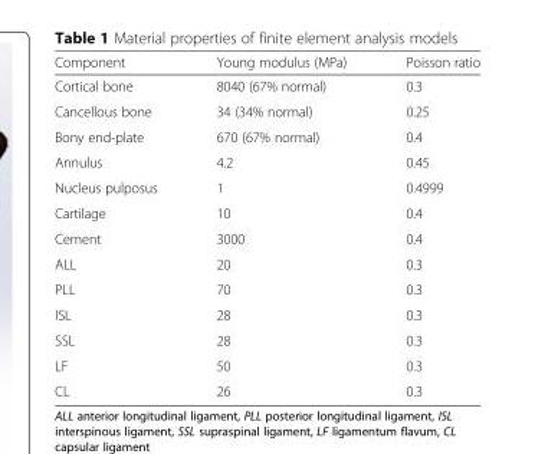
<table><thead><tr><td>Component</td><td>Young modulus (MPa)</td><td>Poisson ratio</td></tr></thead><tbody><tr><td>Cortical bone</td><td>8040 (67% normal)</td><td>0.3</td></tr><tr><td>Cancellous bone</td><td>34 (34% normal)</td><td>0.25</td></tr><tr><td>Bony end-plate</td><td>670 (67% normal)</td><td>0.4</td></tr><tr><td>Annulus</td><td>4.2</td><td>0.45</td></tr><tr><td>Nucleus pulposus</td><td>1</td><td>0.4999</td></tr><tr><td>Cartilage</td><td>10</td><td>0.4</td></tr><tr><td>Cement</td><td>3000</td><td>0.4</td></tr><tr><td>ALL</td><td>20</td><td>0.3</td></tr><tr><td>PLL</td><td>70</td><td>0.3</td></tr><tr><td>ISL</td><td>28</td><td>0.3</td></tr><tr><td>SSL</td><td>28</td><td>0.3</td></tr><tr><td>LF</td><td>50</td><td>0.3</td></tr><tr><td>CL</td><td>26</td><td>0.3</td></tr></tbody></table>